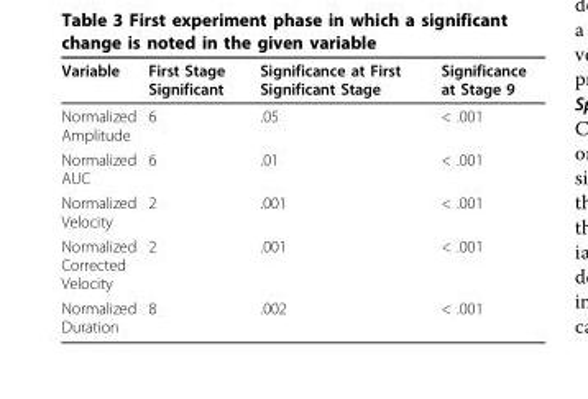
<table><thead><tr><td>Variable</td><td>First Stage Significant</td><td>Significance at First Significant Stage</td><td>Significance at Stage 9</td></tr></thead><tbody><tr><td>Normalized Amplitude</td><td>6</td><td>.05</td><td>&lt; .001</td></tr><tr><td>Normalized AUC</td><td>6</td><td>.01</td><td>&lt; .001</td></tr><tr><td>Normalized Velocity</td><td>2</td><td>.001</td><td>&lt; .001</td></tr><tr><td>Normalized Corrected Velocity</td><td>2</td><td>.001</td><td>&lt; .001</td></tr><tr><td>Normalized Duration</td><td>8</td><td>.002</td><td>&lt; .001</td></tr></tbody></table>